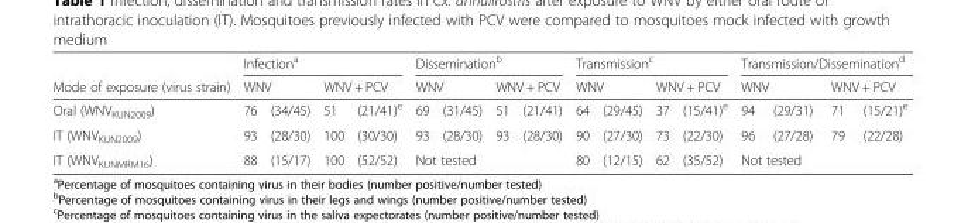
<table><thead><tr><td rowspan="3">Mode of exposure (virus strain) Oral (WNV<sub>KUN2009</sub>)</td><td colspan="4">Infection<sup>a</sup></td><td colspan="4">Dissemination<sup>b</sup></td><td colspan="4">Transmission<sup>c</sup></td><td colspan="4">Transmission/Dissemination<sup>d</sup></td></tr><tr><td colspan="2">WNV</td><td colspan="2">WNV + PCV</td><td colspan="2">WNV</td><td colspan="2">WNV + PCV</td><td colspan="2">WNV</td><td colspan="2">WNV + PCV</td><td colspan="2">WNV</td><td colspan="2">WNV + PCV</td></tr><tr><td>76</td><td>(34/45)</td><td>51</td><td>(21/41)<sup>e</sup></td><td>69</td><td>(31/45)</td><td>51</td><td>(21/41)</td><td>64</td><td>(29/45)</td><td>37</td><td>(15/41)<sup>e</sup></td><td>94</td><td>(29/31)</td><td>71</td><td>(15/21)<sup>e</sup></td></tr></thead><tbody><tr><td>IT (WNV<sub>KUN2009</sub>)</td><td>93</td><td>(28/30)</td><td>100</td><td>(30/30)</td><td>93</td><td>(28/30)</td><td>93</td><td>(28/30)</td><td>90</td><td>(27/30)</td><td>73</td><td>(22/30)</td><td>96</td><td>(27/28)</td><td>79</td><td>(22/28)</td></tr><tr><td>IT (WNV<sub>KUNMRM16</sub>)</td><td>88</td><td>(15/17)</td><td>100</td><td>(52/52)</td><td colspan="4">Not tested</td><td>80</td><td>(12/15)</td><td>62</td><td>(35/52)</td><td colspan="4">Not tested</td></tr></tbody></table>